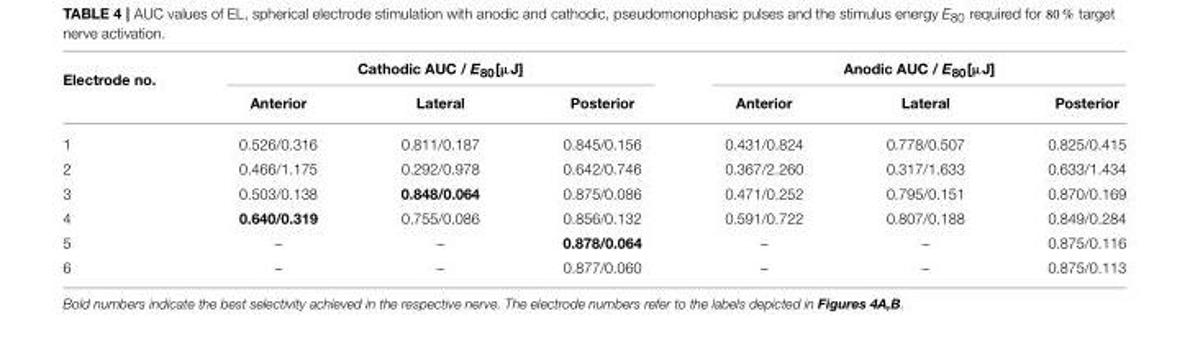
<table><thead><tr><td rowspan="2">Electrode no.</td><td colspan="3">Cathodic AUC / E<sub>80</sub>[µJ]</td><td colspan="3">Anodic AUC / E<sub>80</sub>[µJ]</td></tr><tr><td>Anterior</td><td>Lateral</td><td>Posterior</td><td>Anterior</td><td>Lateral</td><td>Posterior</td></tr></thead><tbody><tr><td>1</td><td>0.526/0.316</td><td>0.811/0.187</td><td>0.845/0.156</td><td>0.431/0.824</td><td>0.778/0.507</td><td>0.825/0.415</td></tr><tr><td>2</td><td>0.466/1.175</td><td>0.292/0.978</td><td>0.642/0.746</td><td>0.367/2.260</td><td>0.317/1.633</td><td>0.633/1.434</td></tr><tr><td>3</td><td>0.503/0.138</td><td>0.848/0.064</td><td>0.875/0.086</td><td>0.471/0.252</td><td>0.795/0.151</td><td>0.870/0.169</td></tr><tr><td>4</td><td>0.640/0.319</td><td>0.755/0.086</td><td>0.856/0.132</td><td>0.591/0.722</td><td>0.807/0.188</td><td>0.849/0.284</td></tr><tr><td>5</td><td>–</td><td>–</td><td>0.878/0.064</td><td>–</td><td>–</td><td>0.875/0.116</td></tr><tr><td>6</td><td>–</td><td>–</td><td>0.877/0.060</td><td>–</td><td>–</td><td>0.875/0.113</td></tr></tbody></table>